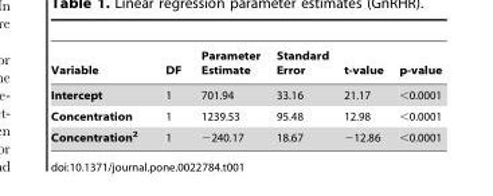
<table><thead><tr><td>Variable</td><td>DF</td><td>Parameter Estimate</td><td>Standard Error</td><td>t-value</td><td>p-value</td></tr></thead><tbody><tr><td>Intercept</td><td>1</td><td>701.94</td><td>33.16</td><td>21.17</td><td>&lt;0.0001</td></tr><tr><td>Concentration</td><td>1</td><td>1239.53</td><td>95.48</td><td>12.98</td><td>&lt;0.0001</td></tr><tr><td>Concentration<sup>2</sup></td><td>1</td><td>−240.17</td><td>18.67</td><td>−12.86</td><td>&lt;0.0001</td></tr></tbody></table>